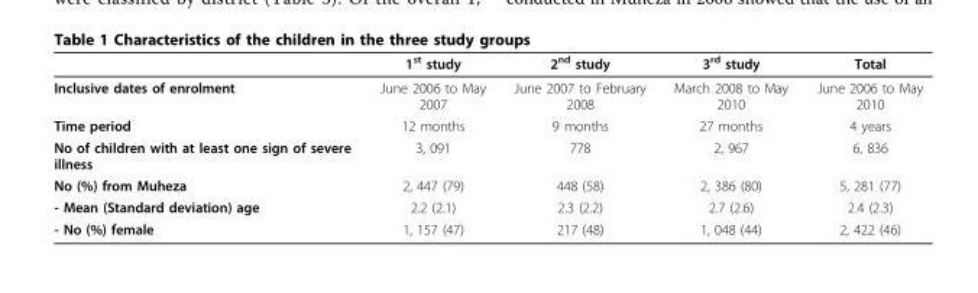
<table><thead><tr><td></td><td>1<sup>st</sup> study</td><td>2<sup>nd</sup> study</td><td>3<sup>rd</sup> study</td><td>Total</td></tr></thead><tbody><tr><td>Inclusive dates of enrolment</td><td>June 2006 to May 2007</td><td>June 2007 to February 2008</td><td>March 2008 to May 2010</td><td>June 2006 to May 2010</td></tr><tr><td>Time period</td><td>12 months</td><td>9 months</td><td>27 months</td><td>4 years</td></tr><tr><td>No of children with at least one sign of severe illness</td><td>3, 091</td><td>778</td><td>2, 967</td><td>6, 836</td></tr><tr><td>No (%) from Muheza</td><td>2, 447 (79)</td><td>448 (58)</td><td>2, 386 (80)</td><td>5, 281 (77)</td></tr><tr><td>- Mean (Standard deviation) age</td><td>2.2 (2.1)</td><td>2.3 (2.2)</td><td>2.7 (2.6)</td><td>2.4 (2.3)</td></tr><tr><td>- No (%) female</td><td>1, 157 (47)</td><td>217 (48)</td><td>1, 048 (44)</td><td>2, 422 (46)</td></tr></tbody></table>